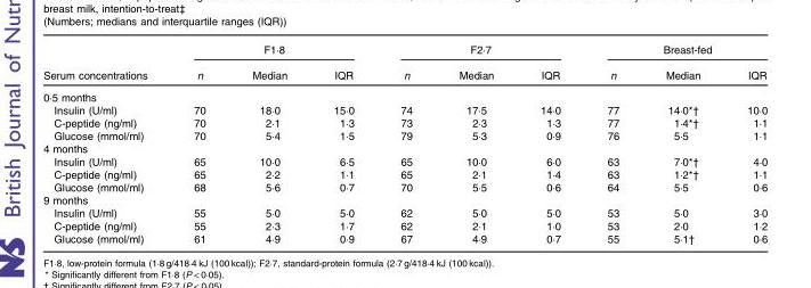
<table><thead><tr><td rowspan="2">Serum concentrations</td><td colspan="3">F1·8</td><td colspan="3">F2·7</td><td colspan="3">Breast-fed</td></tr><tr><td>n</td><td>Median</td><td>IQR</td><td>n</td><td>Median</td><td>IQR</td><td>n</td><td>Median</td><td>IQR</td></tr></thead><tbody><tr><td colspan="10">0·5 months</td></tr><tr><td>Insulin (U/ml)</td><td>70</td><td>18·0</td><td>15·0</td><td>74</td><td>17·5</td><td>14·0</td><td>77</td><td>14·0*†</td><td>10·0</td></tr><tr><td>C-peptide (ng/ml)</td><td>70</td><td>2·1</td><td>1·3</td><td>73</td><td>2·3</td><td>1·3</td><td>77</td><td>1·4*†</td><td>1·1</td></tr><tr><td>Glucose (mmol/ml)</td><td>70</td><td>5·4</td><td>1·5</td><td>79</td><td>5·3</td><td>0·9</td><td>76</td><td>5·5</td><td>1·1</td></tr><tr><td colspan="10">4 months</td></tr><tr><td>Insulin (U/ml)</td><td>65</td><td>10·0</td><td>6·5</td><td>65</td><td>10·0</td><td>6·0</td><td>63</td><td>7·0*†</td><td>4·0</td></tr><tr><td>C-peptide (ng/ml)</td><td>65</td><td>2·2</td><td>1·1</td><td>65</td><td>2·1</td><td>1·4</td><td>63</td><td>1·2*†</td><td>1·1</td></tr><tr><td>Glucose (mmol/ml)</td><td>68</td><td>5·6</td><td>0·7</td><td>70</td><td>5·5</td><td>0·6</td><td>64</td><td>5·5</td><td>0·6</td></tr><tr><td colspan="10">9 months</td></tr><tr><td>Insulin (U/ml)</td><td>55</td><td>5·0</td><td>5·0</td><td>62</td><td>5·0</td><td>5·0</td><td>53</td><td>5·0</td><td>3·0</td></tr><tr><td>C-peptide (ng/ml)</td><td>55</td><td>2·3</td><td>1·7</td><td>62</td><td>2·1</td><td>1·0</td><td>53</td><td>2·0</td><td>1·2</td></tr><tr><td>Glucose (mmol/ml)</td><td>61</td><td>4·9</td><td>0·9</td><td>67</td><td>4·9</td><td>0·7</td><td>55</td><td>5·1†</td><td>0·6</td></tr></tbody></table>